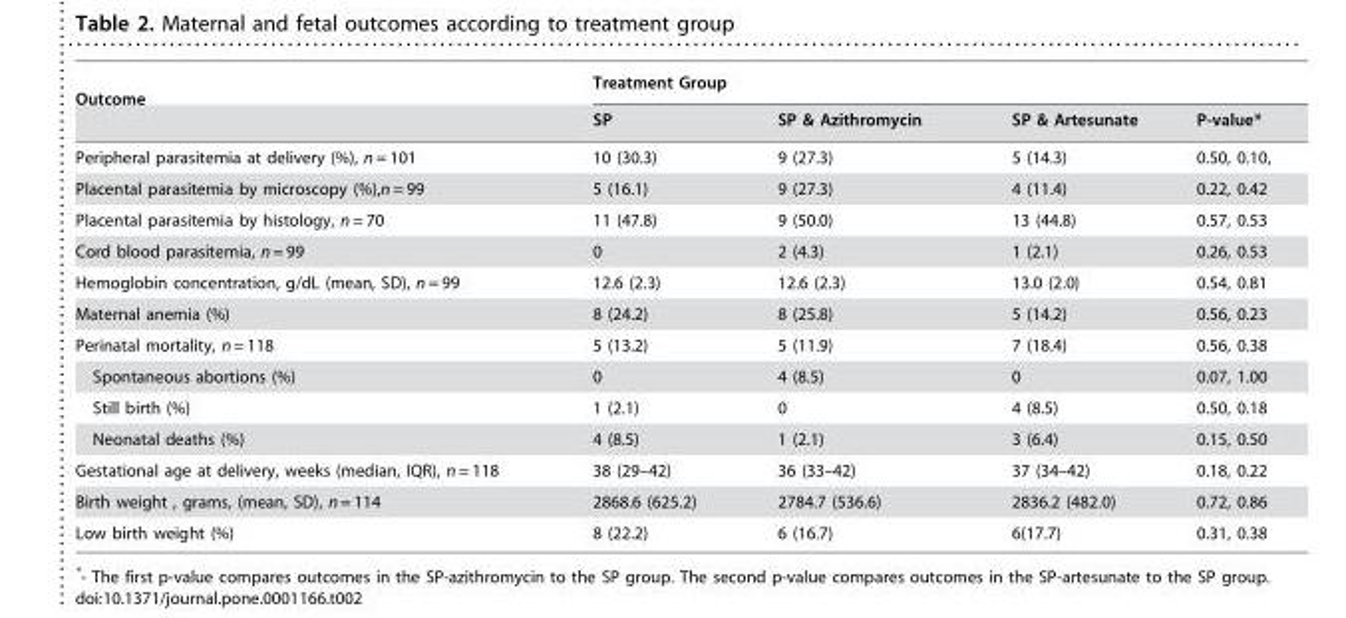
<table><thead><tr><td rowspan="2">Outcome</td><td colspan="4">Treatment Group</td></tr><tr><td>SP</td><td>SP &amp; Azithromycin</td><td>SP &amp; Artesunate</td><td>P-value*</td></tr></thead><tbody><tr><td>Peripheral parasitemia at delivery (%), n = 101</td><td>10 (30.3)</td><td>9 (27.3)</td><td>5 (14.3)</td><td>0.50, 0.10,</td></tr><tr><td>Placental parasitemia by microscopy (%),n = 99</td><td>5 (16.1)</td><td>9 (27.3)</td><td>4 (11.4)</td><td>0.22, 0.42</td></tr><tr><td>Placental parasitemia by histology, n = 70</td><td>11 (47.8)</td><td>9 (50.0)</td><td>13 (44.8)</td><td>0.57, 0.53</td></tr><tr><td>Cord blood parasitemia, n = 99</td><td>0</td><td>2 (4.3)</td><td>1 (2.1)</td><td>0.26, 0.53</td></tr><tr><td>Hemoglobin concentration, g/dL (mean, SD), n = 99</td><td>12.6 (2.3)</td><td>12.6 (2.3)</td><td>13.0 (2.0)</td><td>0.54, 0.81</td></tr><tr><td>Maternal anemia (%)</td><td>8 (24.2)</td><td>8 (25.8)</td><td>5 (14.2)</td><td>0.56, 0.23</td></tr><tr><td>Perinatal mortality, n = 118</td><td>5 (13.2)</td><td>5 (11.9)</td><td>7 (18.4)</td><td>0.56, 0.38</td></tr><tr><td>Spontaneous abortions (%)</td><td>0</td><td>4 (8.5)</td><td>0</td><td>0.07, 1.00</td></tr><tr><td>Still birth (%)</td><td>1 (2.1)</td><td>0</td><td>4 (8.5)</td><td>0.50, 0.18</td></tr><tr><td>Neonatal deaths (%)</td><td>4 (8.5)</td><td>1 (2.1)</td><td>3 (6.4)</td><td>0.15, 0.50</td></tr><tr><td>Gestational age at delivery, weeks (median, IQR), n = 118</td><td>38 (29–42)</td><td>36 (33–42)</td><td>37 (34–42)</td><td>0.18, 0.22</td></tr><tr><td>Birth weight , grams, (mean, SD), n = 114</td><td>2868.6 (625.2)</td><td>2784.7 (536.6)</td><td>2836.2 (482.0)</td><td>0.72, 0.86</td></tr><tr><td>Low birth weight (%)</td><td>8 (22.2)</td><td>6 (16.7)</td><td>6(17.7)</td><td>0.31, 0.38</td></tr></tbody></table>